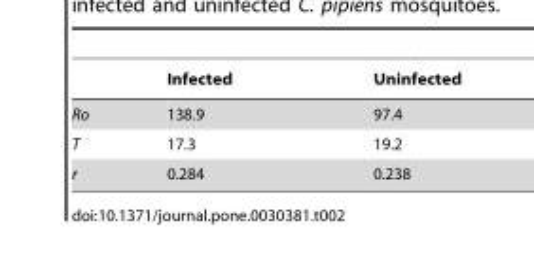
<table><thead><tr><td></td><td>Infected</td><td>Uninfected</td></tr></thead><tbody><tr><td>Ro</td><td>138.9</td><td>97.4</td></tr><tr><td>T</td><td>17.3</td><td>19.2</td></tr><tr><td>r</td><td>0.284</td><td>0.238</td></tr></tbody></table>